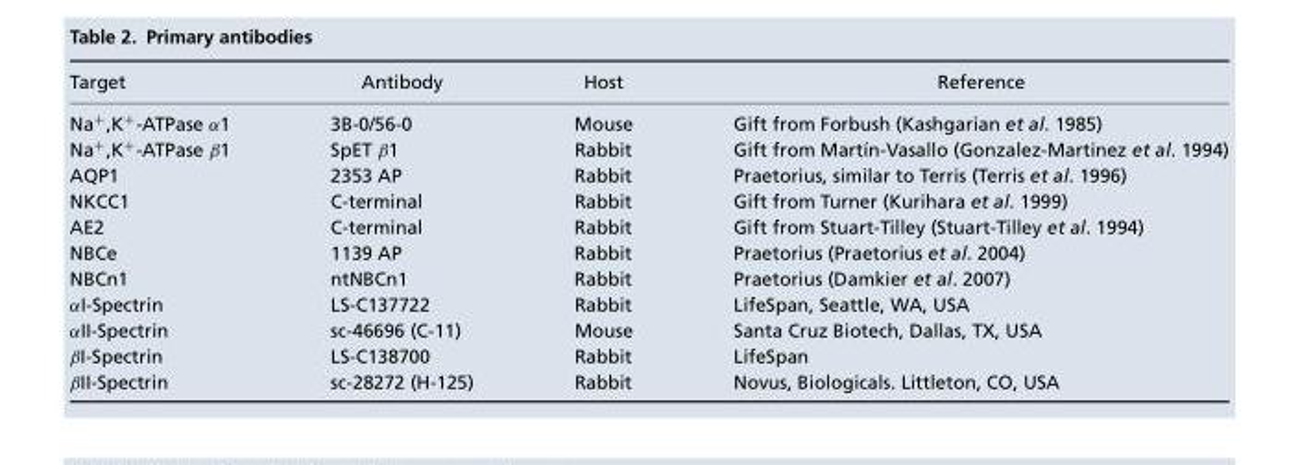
<table><thead><tr><td>Target</td><td>Antibody</td><td>Host</td><td>Reference</td></tr></thead><tbody><tr><td>Na<sup>+</sup>,K<sup>+</sup>-ATPase α1</td><td>3B-0/56-0</td><td>Mouse</td><td>Gift from Forbush (Kashgarian et al. 1985)</td></tr><tr><td>Na<sup>+</sup>,K<sup>+</sup>-ATPase β1</td><td>SpET β1</td><td>Rabbit</td><td>Gift from Mart´ın-Vasallo (Gonzalez-Martinez et al. 1994)</td></tr><tr><td>AQP1</td><td>2353 AP</td><td>Rabbit</td><td>Praetorius, similar to Terris (Terris et al. 1996)</td></tr><tr><td>NKCC1</td><td>C-terminal</td><td>Rabbit</td><td>Gift from Turner (Kurihara et al. 1999)</td></tr><tr><td>AE2</td><td>C-terminal</td><td>Rabbit</td><td>Gift from Stuart-Tilley (Stuart-Tilley et al. 1994)</td></tr><tr><td>NBCe</td><td>1139 AP</td><td>Rabbit</td><td>Praetorius (Praetorius et al. 2004)</td></tr><tr><td>NBCn1</td><td>ntNBCn1</td><td>Rabbit</td><td>Praetorius (Damkier et al. 2007)</td></tr><tr><td>αI-Spectrin</td><td>LS-C137722</td><td>Rabbit</td><td>LifeSpan, Seattle, WA, USA</td></tr><tr><td>αII-Spectrin</td><td>sc-46696 (C-11)</td><td>Mouse</td><td>Santa Cruz Biotech, Dallas, TX, USA</td></tr><tr><td>βI-Spectrin</td><td>LS-C138700</td><td>Rabbit</td><td>LifeSpan</td></tr><tr><td>βII-Spectrin</td><td>sc-28272 (H-125)</td><td>Rabbit</td><td>Novus, Biologicals. Littleton, CO, USA</td></tr></tbody></table>